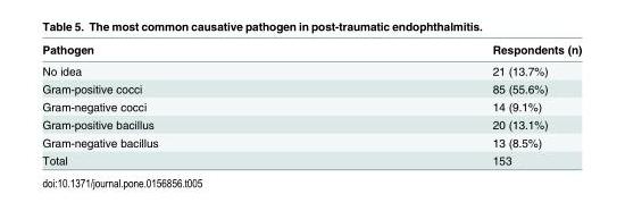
<table><thead><tr><td>Pathogen</td><td>Respondents (n)</td></tr></thead><tbody><tr><td>No idea</td><td>21 (13.7%)</td></tr><tr><td>Gram-positive cocci</td><td>85 (55.6%)</td></tr><tr><td>Gram-negative cocci</td><td>14 (9.1%)</td></tr><tr><td>Gram-positive bacillus</td><td>20 (13.1%)</td></tr><tr><td>Gram-negative bacillus</td><td>13 (8.5%)</td></tr><tr><td>Total</td><td>153</td></tr></tbody></table>